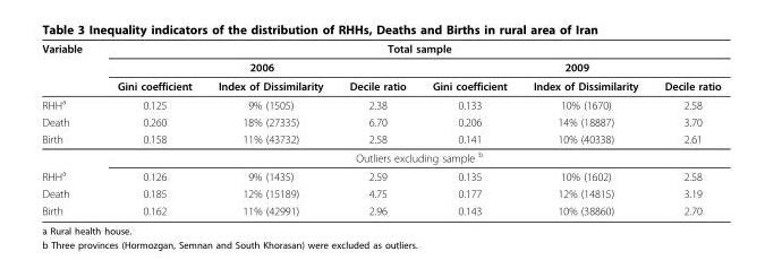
<table><thead><tr><td rowspan="3">Variable</td><td colspan="6">Total sample</td></tr><tr><td colspan="3">2006</td><td colspan="3">2009</td></tr><tr><td>Gini coefficient</td><td>Index of Dissimilarity</td><td>Decile ratio</td><td>Gini coefficient</td><td>Index of Dissimilarity</td><td>Decile ratio</td></tr></thead><tbody><tr><td>RHH<sup>a</sup></td><td>0.125</td><td>9% (1505)</td><td>2.38</td><td>0.133</td><td>10% (1670)</td><td>2.58</td></tr><tr><td>Death</td><td>0.260</td><td>18% (27335)</td><td>6.70</td><td>0.206</td><td>14% (18887)</td><td>3.70</td></tr><tr><td rowspan="2">Birth</td><td>0.158</td><td>11% (43732)</td><td>2.58</td><td>0.141</td><td>10% (40338)</td><td>2.61</td></tr><tr><td colspan="6">Outliers excluding sample <sup>b</sup></td></tr><tr><td>RHH<sup>a</sup></td><td>0.126</td><td>9% (1435)</td><td>2.59</td><td>0.135</td><td>10% (1602)</td><td>2.58</td></tr><tr><td>Death</td><td>0.185</td><td>12% (15189)</td><td>4.75</td><td>0.177</td><td>12% (14815)</td><td>3.19</td></tr><tr><td>Birth</td><td>0.162</td><td>11% (42991)</td><td>2.96</td><td>0.143</td><td>10% (38860)</td><td>2.70</td></tr></tbody></table>